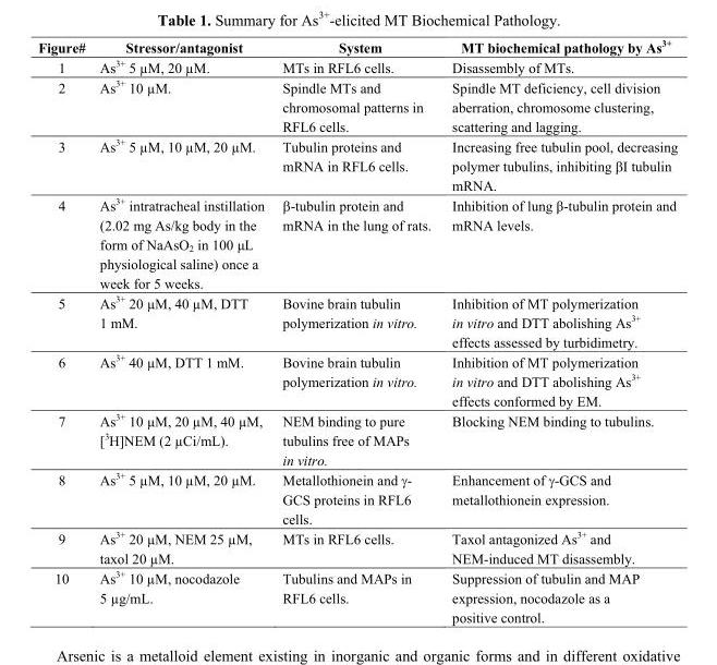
<table><thead><tr><td>Figure#</td><td>Stressor/antagonist</td><td>System</td><td>MT biochemical pathology by As<sup>3+</sup></td></tr></thead><tbody><tr><td>1</td><td>As<sup>3+</sup> 5 µM, 20 µM.</td><td>MTs in RFL6 cells.</td><td>Disassembly of MTs.</td></tr><tr><td>2</td><td>As<sup>3+</sup> 10 µM.</td><td>Spindle MTs and chromosomal patterns in RFL6 cells.</td><td>Spindle MT deficiency, cell division aberration, chromosome clustering, scattering and lagging.</td></tr><tr><td>3</td><td>As<sup>3+</sup> 5 µM, 10 µM, 20 µM.</td><td>Tubulin proteins and mRNA in RFL6 cells.</td><td>Increasing free tubulin pool, decreasing polymer tubulins, inhibiting βI tubulin mRNA.</td></tr><tr><td>4</td><td>As<sup>3+</sup> intratracheal instillation (2.02 mg As/kg body in the form of NaAsO<sub>2</sub> in 100 μL physiological saline) once a week for 5 weeks.</td><td>β-tubulin protein and mRNA in the lung of rats.</td><td>Inhibition of lung β-tubulin protein and mRNA levels.</td></tr><tr><td>5</td><td>As<sup>3+</sup> 20 µM, 40 µM, DTT 1 mM.</td><td>Bovine brain tubulin polymerization in vitro.</td><td>Inhibition of MT polymerization in vitro and DTT abolishing As<sup>3+</sup> effects assessed by turbidimetry.</td></tr><tr><td>6</td><td>As<sup>3+</sup> 40 µM, DTT 1 mM.</td><td>Bovine brain tubulin polymerization in vitro.</td><td>Inhibition of MT polymerization in vitro and DTT abolishing As<sup>3+</sup> effects conformed by EM.</td></tr><tr><td>7</td><td>As<sup>3+</sup> 10 µM, 20 µM, 40 µM, [<sup>3</sup>H]NEM (2 µCi/mL).</td><td>NEM binding to pure tubulins free of MAPs in vitro.</td><td>Blocking NEM binding to tubulins.</td></tr><tr><td>8</td><td>As<sup>3+</sup> 5 µM, 10 µM, 20 µM.</td><td>Metallothionein and γ- GCS proteins in RFL6 cells.</td><td>Enhancement of γ-GCS and metallothionein expression.</td></tr><tr><td>9</td><td>As<sup>3+</sup> 20 µM, NEM 25 µM, taxol 20 µM.</td><td>MTs in RFL6 cells.</td><td>Taxol antagonized As<sup>3+</sup> and NEM-induced MT disassembly.</td></tr><tr><td>10</td><td>As<sup>3+</sup> 10 µM, nocodazole 5 µg/mL.</td><td>Tubulins and MAPs in RFL6 cells.</td><td>Suppression of tubulin and MAP expression, nocodazole as a positive control.</td></tr></tbody></table>